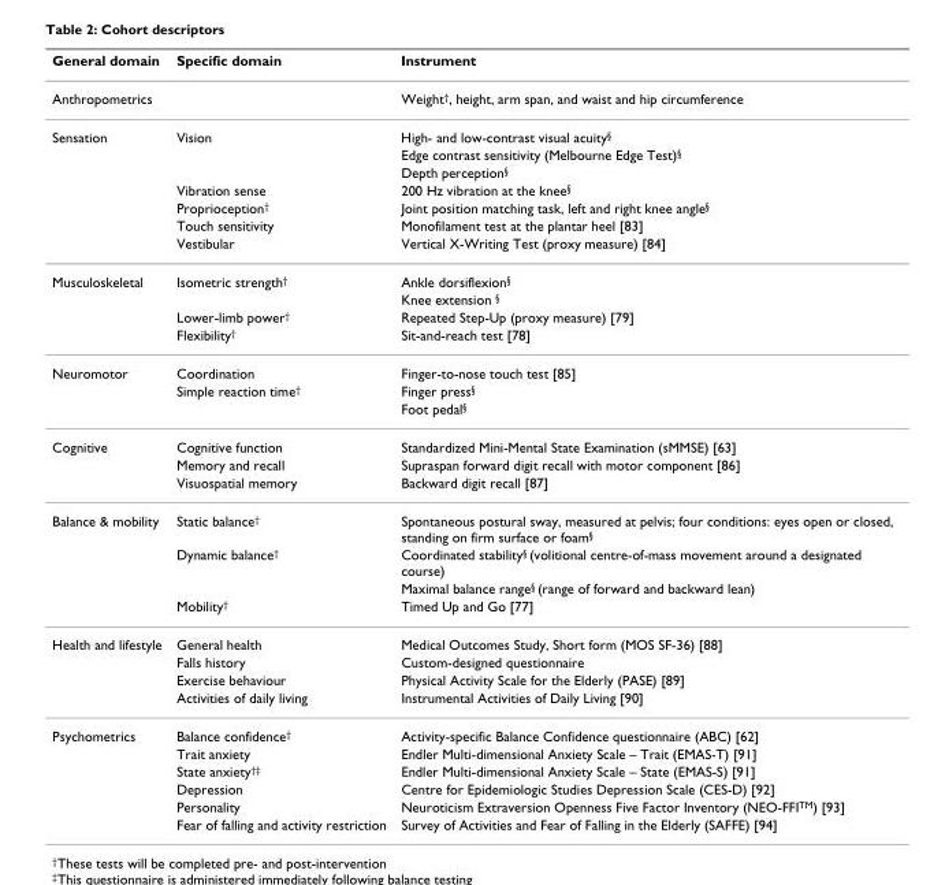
<table><thead><tr><td>General domain</td><td>Specific domain</td><td>Instrument</td></tr></thead><tbody><tr><td>Anthropometrics</td><td></td><td>Weight<sup>†</sup>, height, arm span, and waist and hip circumference</td></tr><tr><td rowspan="7">Sensation</td><td>Vision</td><td>High- and low-contrast visual acuity<sup>§</sup></td></tr><tr><td></td><td>Edge contrast sensitivity (Melbourne Edge Test)<sup>§</sup></td></tr><tr><td></td><td>Depth perception<sup>§</sup></td></tr><tr><td>Vibration sense</td><td>200 Hz vibration at the knee<sup>§</sup></td></tr><tr><td>Proprioception<sup>†</sup></td><td>Joint position matching task, left and right knee angle<sup>§</sup></td></tr><tr><td>Touch sensitivity</td><td>Monofilament test at the plantar heel [83]</td></tr><tr><td>Vestibular</td><td>Vertical X-Writing Test (proxy measure) [84]</td></tr><tr><td rowspan="4">Musculoskeletal</td><td>Isometric strength<sup>†</sup></td><td>Ankle dorsiflexion<sup>§</sup></td></tr><tr><td></td><td>Knee extension <sup>§</sup></td></tr><tr><td>Lower-limb power<sup>†</sup></td><td>Repeated Step-Up (proxy measure) [79]</td></tr><tr><td>Flexibility<sup>†</sup></td><td>Sit-and-reach test [78]</td></tr><tr><td rowspan="3">Neuromotor</td><td>Coordination</td><td>Finger-to-nose touch test [85]</td></tr><tr><td>Simple reaction time<sup>†</sup></td><td>Finger press<sup>§</sup></td></tr><tr><td></td><td>Foot pedal<sup>§</sup></td></tr><tr><td rowspan="3">Cognitive</td><td>Cognitive function</td><td>Standardized Mini-Mental State Examination (sMMSE) [63]</td></tr><tr><td>Memory and recall</td><td>Supraspan forward digit recall with motor component [86]</td></tr><tr><td>Visuospatial memory</td><td>Backward digit recall [87]</td></tr><tr><td rowspan="4">Balance &amp; mobility</td><td>Static balance<sup>†</sup></td><td>Spontaneous postural sway, measured at pelvis; four conditions: eyes open or closed, standing on firm surface or foam<sup>§</sup></td></tr><tr><td>Dynamic balance<sup>†</sup></td><td>Coordinated stability<sup>§</sup> (volitional centre-of-mass movement around a designated course)</td></tr><tr><td></td><td>Maximal balance range<sup>§</sup> (range of forward and backward lean)</td></tr><tr><td>Mobility<sup>†</sup></td><td>Timed Up and Go [77]</td></tr><tr><td rowspan="4">Health and lifestyle</td><td>General health</td><td>Medical Outcomes Study, Short form (MOS SF-36) [88]</td></tr><tr><td>Falls history</td><td>Custom-designed questionnaire</td></tr><tr><td>Exercise behaviour</td><td>Physical Activity Scale for the Elderly (PASE) [89]</td></tr><tr><td>Activities of daily living</td><td>Instrumental Activities of Daily Living [90]</td></tr><tr><td rowspan="6">Psychometrics</td><td>Balance confidence<sup>†</sup></td><td>Activity-specific Balance Confidence questionnaire (ABC) [62]</td></tr><tr><td>Trait anxiety</td><td>Endler Multi-dimensional Anxiety Scale – Trait (EMAS-T) [91]</td></tr><tr><td>State anxiety<sup>†‡</sup></td><td>Endler Multi-dimensional Anxiety Scale – State (EMAS-S) [91]</td></tr><tr><td>Depression</td><td>Centre for Epidemiologic Studies Depression Scale (CES-D) [92]</td></tr><tr><td>Personality</td><td>Neuroticism Extraversion Openness Five Factor Inventory (NEO-FFI<sup>TM</sup>) [93]</td></tr><tr><td>Fear of falling and activity restriction</td><td>Survey of Activities and Fear of Falling in the Elderly (SAFFE) [94]</td></tr></tbody></table>